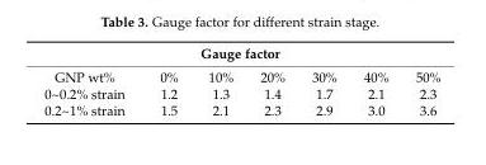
<table><thead><tr><td colspan="7">Gauge factor</td></tr><tr><td>GNP wt%</td><td>0%</td><td>10%</td><td>20%</td><td>30%</td><td>40%</td><td>50%</td></tr></thead><tbody><tr><td>0~0.2% strain</td><td>1.2</td><td>1.3</td><td>1.4</td><td>1.7</td><td>2.1</td><td>2.3</td></tr><tr><td>0.2~1% strain</td><td>1.5</td><td>2.1</td><td>2.3</td><td>2.9</td><td>3.0</td><td>3.6</td></tr></tbody></table>